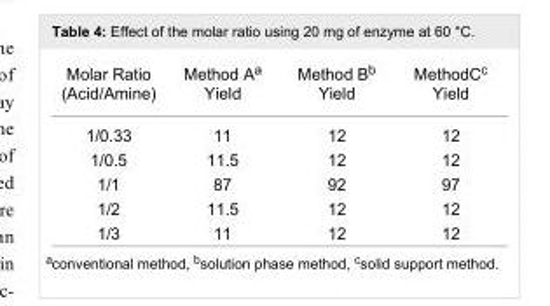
<table><tbody><tr><td>Molar Ratio (Acid/Amine)</td><td>Method A<sup>a</sup> Yield</td><td>Method B<sup>b</sup> Yield</td><td>MethodC<sup>c</sup> Yield</td></tr><tr><td>1/0.33</td><td>11</td><td>12</td><td>12</td></tr><tr><td>1/0.5</td><td>11.5</td><td>12</td><td>12</td></tr><tr><td>1/1</td><td>87</td><td>92</td><td>97</td></tr><tr><td>1/2</td><td>11.5</td><td>12</td><td>12</td></tr><tr><td>1/3</td><td>11</td><td>12</td><td>12</td></tr></tbody></table>